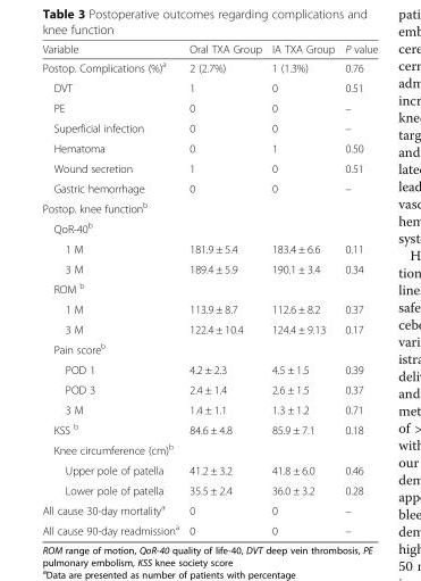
<table><thead><tr><td>Variable</td><td>Oral TXA Group</td><td>IA TXA Group</td><td>P value</td></tr></thead><tbody><tr><td>Postop. Complications (%)<sup>a</sup></td><td>2 (2.7%)</td><td>1 (1.3%)</td><td>0.76</td></tr><tr><td>DVT</td><td>1</td><td>0</td><td>0.51</td></tr><tr><td>PE</td><td>0</td><td>0</td><td>–</td></tr><tr><td>Superficial infection</td><td>0</td><td>0</td><td>–</td></tr><tr><td>Hematoma</td><td>0</td><td>1</td><td>0.50</td></tr><tr><td>Wound secretion</td><td>1</td><td>0</td><td>0.51</td></tr><tr><td>Gastric hemorrhage</td><td>0</td><td>0</td><td>–</td></tr><tr><td colspan="4">Postop. knee function<sup>b</sup></td></tr><tr><td colspan="4">QoR-40<sup>b</sup></td></tr><tr><td>1 M</td><td>181.9 ± 5.4</td><td>183.4 ± 6.6</td><td>0.11</td></tr><tr><td>3 M</td><td>189.4 ± 5.9</td><td>190.1 ± 3.4</td><td>0.34</td></tr><tr><td colspan="4">ROM <sup>b</sup></td></tr><tr><td>1 M</td><td>113.9 ± 8.7</td><td>112.6 ± 8.2</td><td>0.37</td></tr><tr><td>3 M</td><td>122.4 ± 10.4</td><td>124.4 ± 9.13</td><td>0.17</td></tr><tr><td colspan="4">Pain score<sup>b</sup></td></tr><tr><td>POD 1</td><td>4.2 ± 2.3</td><td>4.5 ± 1.5</td><td>0.39</td></tr><tr><td>POD 3</td><td>2.4 ± 1.4</td><td>2.6 ± 1.5</td><td>0.37</td></tr><tr><td>3 M</td><td>1.4 ± 1.1</td><td>1.3 ± 1.2</td><td>0.71</td></tr><tr><td>KSS <sup>b</sup></td><td>84.6 ± 4.8</td><td>85.9 ± 7.1</td><td>0.18</td></tr><tr><td colspan="4">Knee circumference (cm)<sup>b</sup></td></tr><tr><td>Upper pole of patella</td><td>41.2 ± 3.2</td><td>41.8 ± 6.0</td><td>0.46</td></tr><tr><td>Lower pole of patella</td><td>35.5 ± 2.4</td><td>36.0 ± 3.2</td><td>0.28</td></tr><tr><td>All cause 30-day mortality<sup>a</sup></td><td>0</td><td>0</td><td>–</td></tr><tr><td>All cause 90-day readmission<sup>a</sup></td><td>0</td><td>0</td><td>–</td></tr></tbody></table>